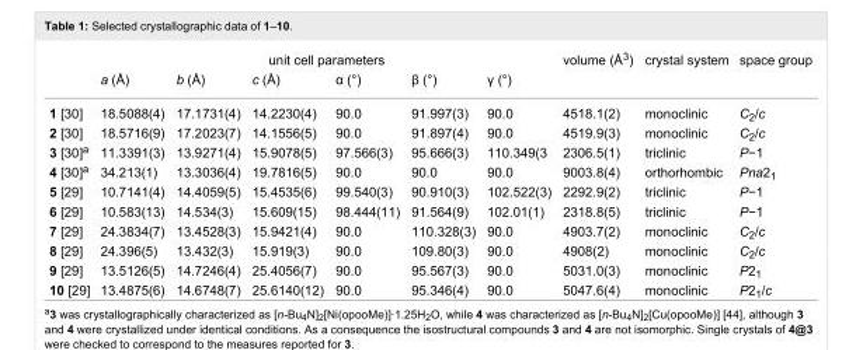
<table><thead><tr><td rowspan="2"></td><td colspan="6">unit cell parameters</td><td rowspan="2">volume (Å<sup>3</sup>)</td><td rowspan="2">crystal system</td><td rowspan="2">space group</td></tr><tr><td>a (Å)</td><td>b (Å)</td><td>c (Å)</td><td>α (°)</td><td>β (°)</td><td>γ (°)</td></tr></thead><tbody><tr><td>1 [30]</td><td>18.5088(4)</td><td>17.1731(4)</td><td>14.2230(4)</td><td>90.0</td><td>91.997(3)</td><td>90.0</td><td>4518.1(2)</td><td>monoclinic</td><td>C<sub>2</sub>/c</td></tr><tr><td>2 [30]</td><td>18.5716(9)</td><td>17.2023(7)</td><td>14.1556(5)</td><td>90.0</td><td>91.897(4)</td><td>90.0</td><td>4519.9(3)</td><td>monoclinic</td><td>C<sub>2</sub>/c</td></tr><tr><td>3 [30]<sup>a</sup></td><td>11.3391(3)</td><td>13.9271(4)</td><td>15.9078(5)</td><td>97.566(3)</td><td>95.666(3)</td><td>110.349(3</td><td>2306.5(1)</td><td>triclinic</td><td>P−1</td></tr><tr><td>4 [30]<sup>a</sup></td><td>34.213(1)</td><td>13.3036(4)</td><td>19.7816(5)</td><td>90.0</td><td>90.0</td><td>90.0</td><td>9003.8(4)</td><td>orthorhombic</td><td>Pna2<sub>1</sub></td></tr><tr><td>5 [29]</td><td>10.7141(4)</td><td>14.4059(5)</td><td>15.4535(6)</td><td>99.540(3)</td><td>90.910(3)</td><td>102.522(3)</td><td>2292.9(2)</td><td>triclinic</td><td>P−1</td></tr><tr><td>6 [29]</td><td>10.583(13)</td><td>14.534(3)</td><td>15.609(15)</td><td>98.444(11)</td><td>91.564(9)</td><td>102.01(1)</td><td>2318.8(5)</td><td>triclinic</td><td>P−1</td></tr><tr><td>7 [29]</td><td>24.3834(7)</td><td>13.4528(3)</td><td>15.9421(4)</td><td>90.0</td><td>110.328(3)</td><td>90.0</td><td>4903.7(2)</td><td>monoclinic</td><td>C<sub>2</sub>/c</td></tr><tr><td>8 [29]</td><td>24.396(5)</td><td>13.432(3)</td><td>15.919(3)</td><td>90.0</td><td>109.80(3)</td><td>90.0</td><td>4908(2)</td><td>monoclinic</td><td>C<sub>2</sub>/c</td></tr><tr><td>9 [29]</td><td>13.5126(5)</td><td>14.7246(4)</td><td>25.4056(7)</td><td>90.0</td><td>95.567(3)</td><td>90.0</td><td>5031.0(3)</td><td>monoclinic</td><td>P2<sub>1</sub></td></tr><tr><td>10 [29]</td><td>13.4875(6)</td><td>14.6748(7)</td><td>25.6140(12)</td><td>90.0</td><td>95.346(4)</td><td>90.0</td><td>5047.6(4)</td><td>monoclinic</td><td>P2<sub>1</sub>/c</td></tr></tbody></table>